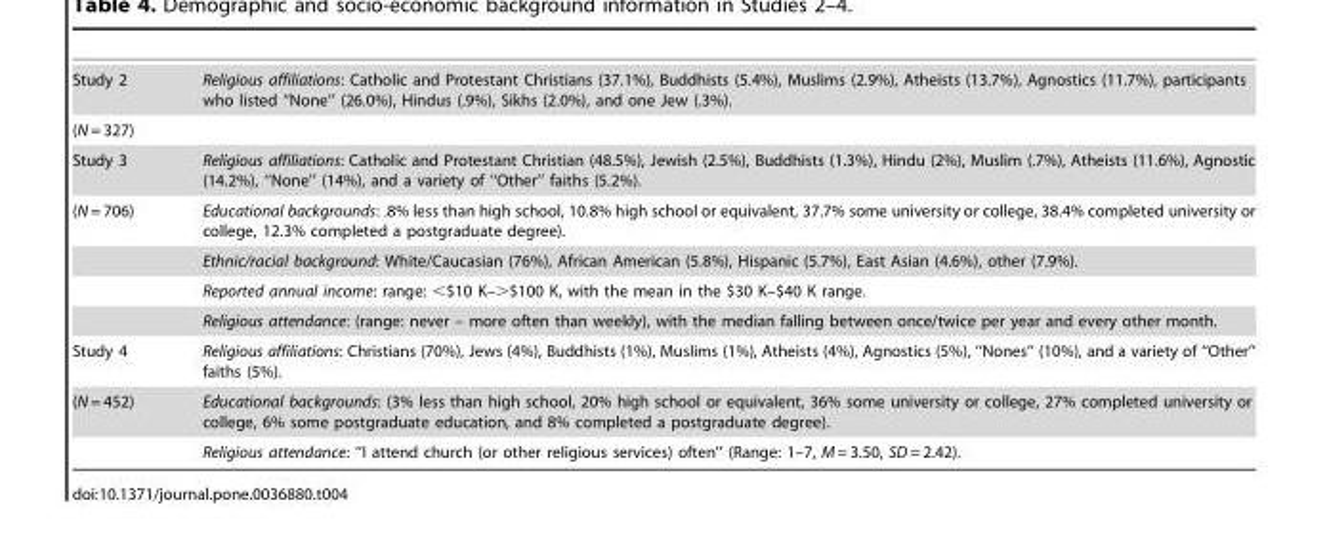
<table><tbody><tr><td>Study 2</td><td>Religious affiliations: Catholic and Protestant Christians (37.1%), Buddhists (5.4%), Muslims (2.9%), Atheists (13.7%), Agnostics (11.7%), participants who listed ‘‘None’’ (26.0%), Hindus (.9%), Sikhs (2.0%), and one Jew (.3%).</td></tr><tr><td colspan="2">(N = 327)</td></tr><tr><td>Study 3</td><td>Religious affiliations: Catholic and Protestant Christian (48.5%), Jewish (2.5%), Buddhists (1.3%), Hindu (2%), Muslim (.7%), Atheists (11.6%), Agnostic (14.2%), ‘‘None’’ (14%), and a variety of ‘‘Other’’ faiths (5.2%).</td></tr><tr><td rowspan="4">(N = 706)</td><td>Educational backgrounds: .8% less than high school, 10.8% high school or equivalent, 37.7% some university or college, 38.4% completed university or college, 12.3% completed a postgraduate degree).</td></tr><tr><td>Ethnic/racial background: White/Caucasian (76%), African American (5.8%), Hispanic (5.7%), East Asian (4.6%), other (7.9%).</td></tr><tr><td>Reported annual income: range: &lt;$10 K–&gt;$100 K, with the mean in the $30 K–$40 K range.</td></tr><tr><td>Religious attendance: (range: never – more often than weekly), with the median falling between once/twice per year and every other month.</td></tr><tr><td>Study 4</td><td>Religious affiliations: Christians (70%), Jews (4%), Buddhists (1%), Muslims (1%), Atheists (4%), Agnostics (5%), ‘‘Nones’’ (10%), and a variety of ‘‘Other’’ faiths (5%).</td></tr><tr><td rowspan="2">(N = 452)</td><td>Educational backgrounds: (3% less than high school, 20% high school or equivalent, 36% some university or college, 27% completed university or college, 6% some postgraduate education, and 8% completed a postgraduate degree).</td></tr><tr><td>Religious attendance: ‘‘I attend church (or other religious services) often’’ (Range: 1–7, M = 3.50, SD = 2.42).</td></tr></tbody></table>